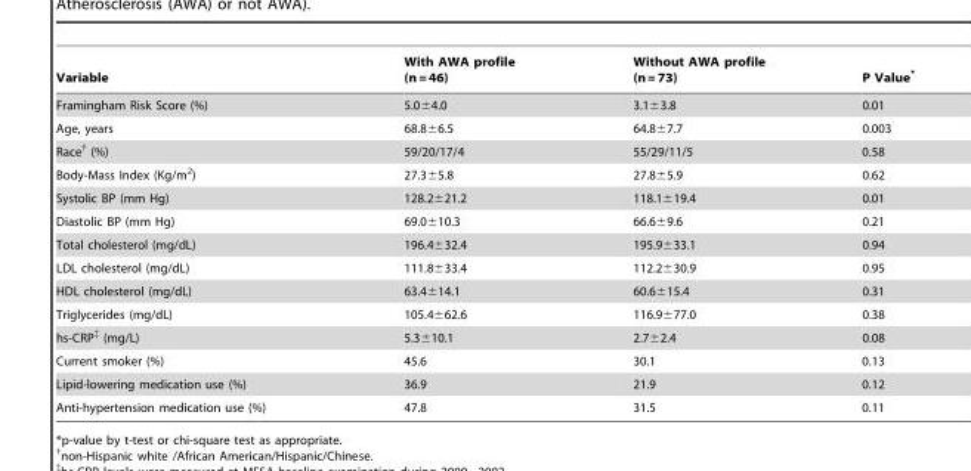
<table><thead><tr><td>Variable</td><td>With AWA profile (n = 46)</td><td>Without AWA profile (n = 73)</td><td>P Value*</td></tr></thead><tbody><tr><td>Framingham Risk Score (%)</td><td>5.0±4.0</td><td>3.1±3.8</td><td>0.01</td></tr><tr><td>Age, years</td><td>68.8±6.5</td><td>64.8±7.7</td><td>0.003</td></tr><tr><td>Race† (%)</td><td>59/20/17/4</td><td>55/29/11/5</td><td>0.58</td></tr><tr><td>Body-Mass Index (Kg/m<sup>2</sup>)</td><td>27.3±5.8</td><td>27.8±5.9</td><td>0.62</td></tr><tr><td>Systolic BP (mm Hg)</td><td>128.2±21.2</td><td>118.1±19.4</td><td>0.01</td></tr><tr><td>Diastolic BP (mm Hg)</td><td>69.0±10.3</td><td>66.6±9.6</td><td>0.21</td></tr><tr><td>Total cholesterol (mg/dL)</td><td>196.4±32.4</td><td>195.9±33.1</td><td>0.94</td></tr><tr><td>LDL cholesterol (mg/dL)</td><td>111.8±33.4</td><td>112.2±30.9</td><td>0.95</td></tr><tr><td>HDL cholesterol (mg/dL)</td><td>63.4±14.1</td><td>60.6±15.4</td><td>0.31</td></tr><tr><td>Triglycerides (mg/dL)</td><td>105.4±62.6</td><td>116.9±77.0</td><td>0.38</td></tr><tr><td>hs-CRP‡ (mg/L)</td><td>5.3±10.1</td><td>2.7±2.4</td><td>0.08</td></tr><tr><td>Current smoker (%)</td><td>45.6</td><td>30.1</td><td>0.13</td></tr><tr><td>Lipid-lowering medication use (%)</td><td>36.9</td><td>21.9</td><td>0.12</td></tr><tr><td>Anti-hypertension medication use (%)</td><td>47.8</td><td>31.5</td><td>0.11</td></tr></tbody></table>